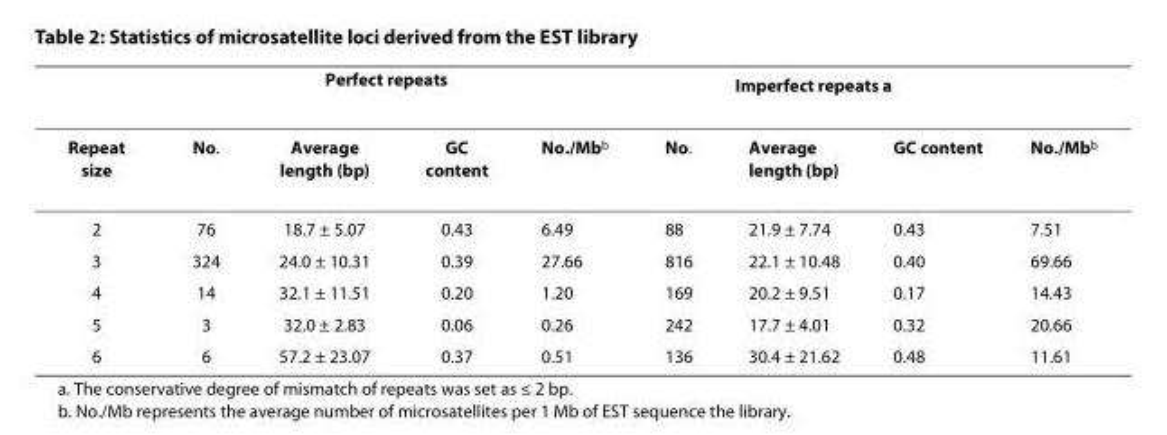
<table><thead><tr><td rowspan="2">Repeat size</td><td rowspan="2">No.</td><td colspan="2">Perfect repeats</td><td rowspan="2">No./Mb<sup>b</sup></td><td rowspan="2">No.</td><td colspan="3">Imperfect repeats <sup>a</sup></td></tr><tr><td>Average length (bp)</td><td>GC content</td><td>Average length (bp)</td><td>GC content</td><td>No./Mb<sup>b</sup></td></tr></thead><tbody><tr><td>2</td><td>76</td><td>18.7 ± 5.07</td><td>0.43</td><td>6.49</td><td>88</td><td>21.9 ± 7.74</td><td>0.43</td><td>7.51</td></tr><tr><td>3</td><td>324</td><td>24.0 ± 10.31</td><td>0.39</td><td>27.66</td><td>816</td><td>22.1 ± 10.48</td><td>0.40</td><td>69.66</td></tr><tr><td>4</td><td>14</td><td>32.1 ± 11.51</td><td>0.20</td><td>1.20</td><td>169</td><td>20.2 ± 9.51</td><td>0.17</td><td>14.43</td></tr><tr><td>5</td><td>3</td><td>32.0 ± 2.83</td><td>0.06</td><td>0.26</td><td>242</td><td>17.7 ± 4.01</td><td>0.32</td><td>20.66</td></tr><tr><td>6</td><td>6</td><td>57.2 ± 23.07</td><td>0.37</td><td>0.51</td><td>136</td><td>30.4 ± 21.62</td><td>0.48</td><td>11.61</td></tr></tbody></table>